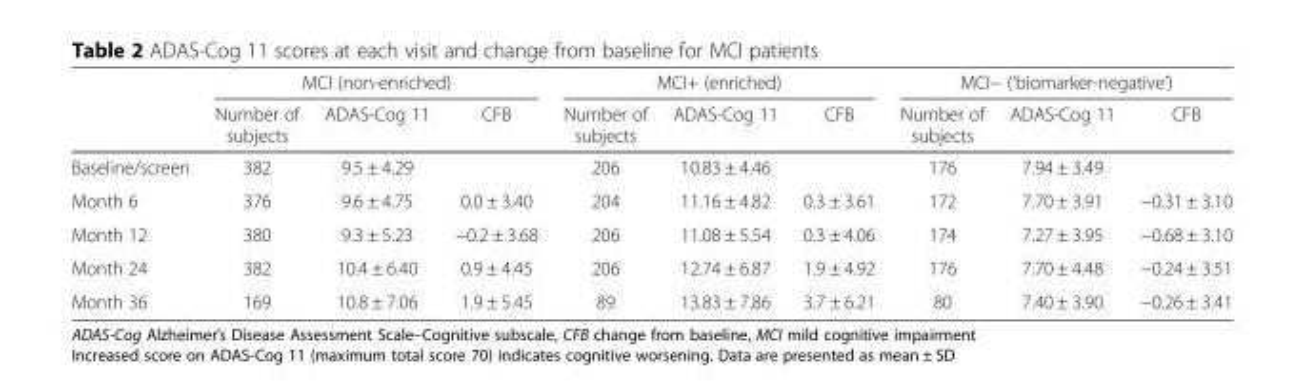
<table><thead><tr><td rowspan="2"></td><td colspan="3">MCI (non-enriched)</td><td colspan="3">MCI+ (enriched)</td><td colspan="3">MCI− (‘biomarker-negative’)</td></tr><tr><td>Number of subjects</td><td>ADAS-Cog 11</td><td>CFB</td><td>Number of subjects</td><td>ADAS-Cog 11</td><td>CFB</td><td>Number of subjects</td><td>ADAS-Cog 11</td><td>CFB</td></tr></thead><tbody><tr><td>Baseline/screen</td><td>382</td><td>9.5 ± 4.29</td><td></td><td>206</td><td>10.83 ± 4.46</td><td></td><td>176</td><td>7.94 ± 3.49</td><td></td></tr><tr><td>Month 6</td><td>376</td><td>9.6 ± 4.75</td><td>0.0 ± 3.40</td><td>204</td><td>11.16 ± 4.82</td><td>0.3 ± 3.61</td><td>172</td><td>7.70 ± 3.91</td><td>−0.31 ± 3.10</td></tr><tr><td>Month 12</td><td>380</td><td>9.3 ± 5.23</td><td>−0.2 ± 3.68</td><td>206</td><td>11.08 ± 5.54</td><td>0.3 ± 4.06</td><td>174</td><td>7.27 ± 3.95</td><td>−0.68 ± 3.10</td></tr><tr><td>Month 24</td><td>382</td><td>10.4 ± 6.40</td><td>0.9 ± 4.45</td><td>206</td><td>12.74 ± 6.87</td><td>1.9 ± 4.92</td><td>176</td><td>7.70 ± 4.48</td><td>−0.24 ± 3.51</td></tr><tr><td>Month 36</td><td>169</td><td>10.8 ± 7.06</td><td>1.9 ± 5.45</td><td>89</td><td>13.83 ± 7.86</td><td>3.7 ± 6.21</td><td>80</td><td>7.40 ± 3.90</td><td>−0.26 ± 3.41</td></tr></tbody></table>